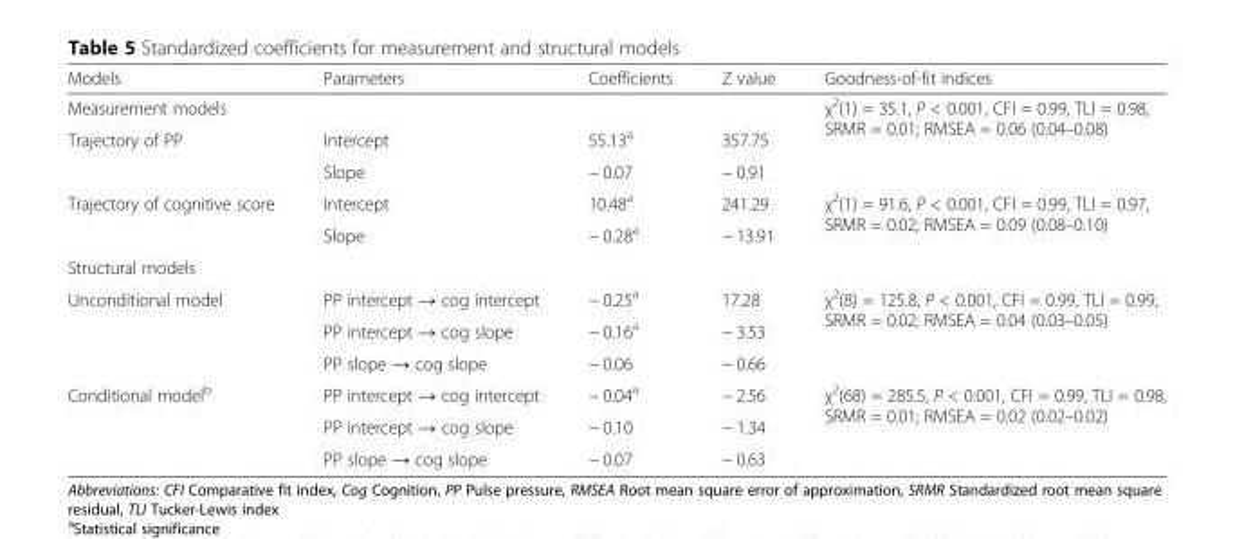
<table><thead><tr><td>Models</td><td>Parameters</td><td>Coefficients</td><td>Z value</td><td>Goodness-of-fit indices</td></tr></thead><tbody><tr><td colspan="4">Measurement models</td><td rowspan="3">χ<sup>2</sup>(1) = 35.1, P &lt; 0.001, CFI = 0.99, TLI = 0.98, SRMR = 0.01; RMSEA = 0.06 (0.04–0.08)</td></tr><tr><td rowspan="2">Trajectory of PP</td><td>Intercept</td><td>55.13<sup>a</sup></td><td>357.75</td></tr><tr><td>Slope</td><td>− 0.07</td><td>− 0.91</td></tr><tr><td rowspan="2">Trajectory of cognitive score</td><td>Intercept</td><td>10.48<sup>a</sup></td><td>241.29</td><td rowspan="2">χ<sup>2</sup>(1) = 91.6, P &lt; 0.001, CFI = 0.99, TLI = 0.97, SRMR = 0.02; RMSEA = 0.09 (0.08–0.10)</td></tr><tr><td>Slope</td><td>− 0.28<sup>a</sup></td><td>− 13.91</td></tr><tr><td colspan="5">Structural models</td></tr><tr><td rowspan="3">Unconditional model</td><td>PP intercept → cog intercept</td><td>− 0.25<sup>a</sup></td><td>17.28</td><td rowspan="3">χ<sup>2</sup>(8) = 125.8, P &lt; 0.001, CFI = 0.99, TLI = 0.99, SRMR = 0.02; RMSEA = 0.04 (0.03–0.05)</td></tr><tr><td>PP intercept → cog slope</td><td>− 0.16<sup>a</sup></td><td>− 3.53</td></tr><tr><td>PP slope → cog slope</td><td>− 0.06</td><td>− 0.66</td></tr><tr><td rowspan="3">Conditional model<sup>b</sup></td><td>PP intercept → cog intercept</td><td>− 0.04<sup>a</sup></td><td>− 2.56</td><td rowspan="3">χ<sup>2</sup>(68) = 285.5, P &lt; 0.001, CFI = 0.99, TLI = 0.98, SRMR = 0.01; RMSEA = 0.02 (0.02–0.02)</td></tr><tr><td>PP intercept → cog slope</td><td>− 0.10</td><td>− 1.34</td></tr><tr><td>PP slope → cog slope</td><td>− 0.07</td><td>− 0.63</td></tr></tbody></table>